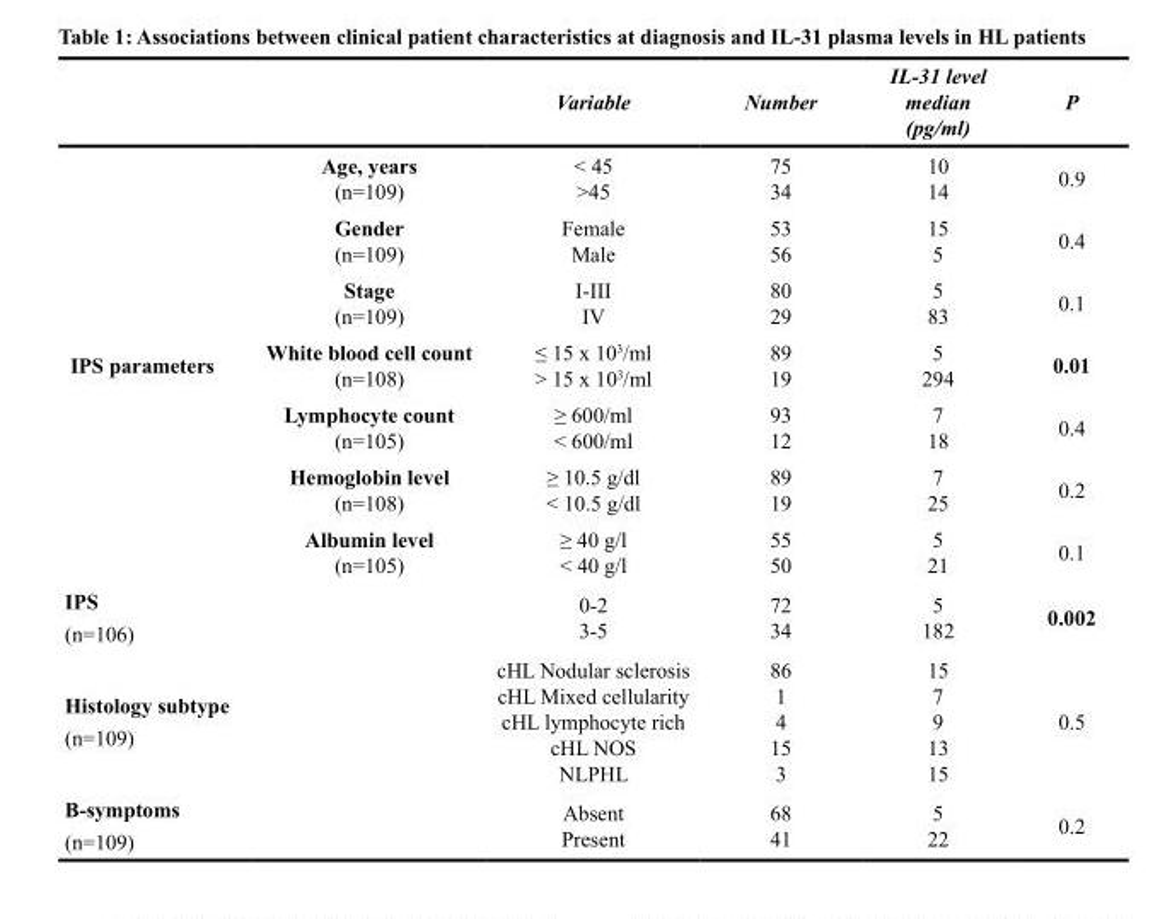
<table><thead><tr><td></td><td></td><td>Variable</td><td>Number</td><td>IL-31 level median (pg/ml)</td><td>P</td></tr></thead><tbody><tr><td rowspan="7">IPS parameters</td><td>Age, years (n=109)</td><td>&lt; 45 &gt;45</td><td>75 34</td><td>10 14</td><td>0.9</td></tr><tr><td>Gender (n=109)</td><td>Female Male</td><td>53 56</td><td>15 5</td><td>0.4</td></tr><tr><td>Stage (n=109)</td><td>I-III IV</td><td>80 29</td><td>5 83</td><td>0.1</td></tr><tr><td>White blood cell count (n=108)</td><td>≤ 15 x 10<sup>3</sup>/ml &gt; 15 x 10<sup>3</sup>/ml</td><td>89 19</td><td>5 294</td><td>0.01</td></tr><tr><td>Lymphocyte count (n=105)</td><td>≥ 600/ml &lt; 600/ml</td><td>93 12</td><td>7 18</td><td>0.4</td></tr><tr><td>Hemoglobin level (n=108)</td><td>≥ 10.5 g/dl &lt; 10.5 g/dl</td><td>89 19</td><td>7 25</td><td>0.2</td></tr><tr><td>Albumin level (n=105)</td><td>≥ 40 g/l &lt; 40 g/l</td><td>55 50</td><td>5 21</td><td>0.1</td></tr><tr><td>IPS (n=106)</td><td></td><td>0-2 3-5</td><td>72 34</td><td>5 182</td><td>0.002</td></tr><tr><td>Histology subtype (n=109)</td><td></td><td>cHL Nodular sclerosis cHL Mixed cellularity cHL lymphocyte rich cHL NOS NLPHL</td><td>86 1 4 15 3</td><td>15 7 9 13 15</td><td>0.5</td></tr><tr><td>B-symptoms (n=109)</td><td></td><td>Absent Present</td><td>68 41</td><td>5 22</td><td>0.2</td></tr></tbody></table>